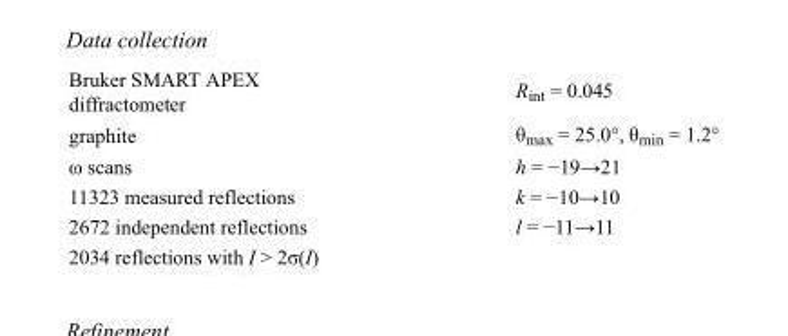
<table><tbody><tr><td>Bruker SMART APEX diffractometer</td><td>R<sub>int</sub> = 0.045</td></tr><tr><td>graphite</td><td>θ<sub>max</sub> = 25.0°, θ<sub>min</sub> = 1.2°</td></tr><tr><td>ω scans</td><td>h = −19→21</td></tr><tr><td>11323 measured reflections</td><td>k = −10→10</td></tr><tr><td>2672 independent reflections</td><td>l = −11→11</td></tr><tr><td>2034 reflections with I &gt; 2σ(I)</td><td></td></tr></tbody></table>